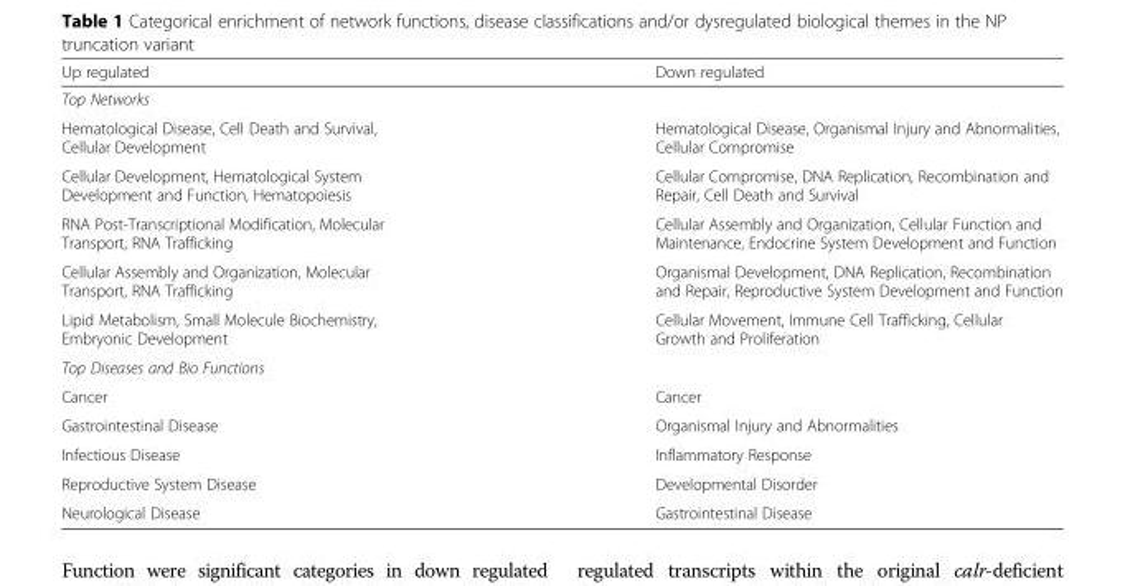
<table><tbody><tr><td>Up regulated</td><td>Down regulated</td></tr><tr><td colspan="2">Top Networks</td></tr><tr><td>Hematological Disease, Cell Death and Survival, Cellular Development</td><td>Hematological Disease, Organismal Injury and Abnormalities, Cellular Compromise</td></tr><tr><td>Cellular Development, Hematological System Development and Function, Hematopoiesis</td><td>Cellular Compromise, DNA Replication, Recombination and Repair, Cell Death and Survival</td></tr><tr><td>RNA Post-Transcriptional Modification, Molecular Transport, RNA Trafficking</td><td>Cellular Assembly and Organization, Cellular Function and Maintenance, Endocrine System Development and Function</td></tr><tr><td>Cellular Assembly and Organization, Molecular Transport, RNA Trafficking</td><td>Organismal Development, DNA Replication, Recombination and Repair, Reproductive System Development and Function</td></tr><tr><td>Lipid Metabolism, Small Molecule Biochemistry, Embryonic Development</td><td>Cellular Movement, Immune Cell Trafficking, Cellular Growth and Proliferation</td></tr><tr><td colspan="2">Top Diseases and Bio Functions</td></tr><tr><td>Cancer</td><td>Cancer</td></tr><tr><td>Gastrointestinal Disease</td><td>Organismal Injury and Abnormalities</td></tr><tr><td>Infectious Disease</td><td>Inflammatory Response</td></tr><tr><td>Reproductive System Disease</td><td>Developmental Disorder</td></tr><tr><td>Neurological Disease</td><td>Gastrointestinal Disease</td></tr></tbody></table>